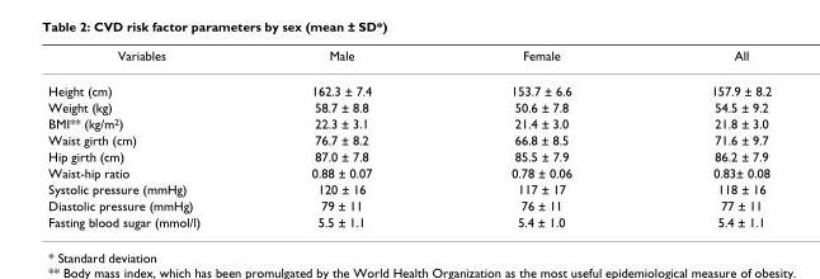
<table><thead><tr><td>Variables</td><td>Male</td><td>Female</td><td>All</td></tr></thead><tbody><tr><td>Height (cm)</td><td>162.3 ± 7.4</td><td>153.7 ± 6.6</td><td>157.9 ± 8.2</td></tr><tr><td>Weight (kg)</td><td>58.7 ± 8.8</td><td>50.6 ± 7.8</td><td>54.5 ± 9.2</td></tr><tr><td>BMI** (kg/m<sup>2</sup>)</td><td>22.3 ± 3.1</td><td>21.4 ± 3.0</td><td>21.8 ± 3.0</td></tr><tr><td>Waist girth (cm)</td><td>76.7 ± 8.2</td><td>66.8 ± 8.5</td><td>71.6 ± 9.7</td></tr><tr><td>Hip girth (cm)</td><td>87.0 ± 7.8</td><td>85.5 ± 7.9</td><td>86.2 ± 7.9</td></tr><tr><td>Waist-hip ratio</td><td>0.88 ± 0.07</td><td>0.78 ± 0.06</td><td>0.83± 0.08</td></tr><tr><td>Systolic pressure (mmHg)</td><td>120 ± 16</td><td>117 ± 17</td><td>118 ± 16</td></tr><tr><td>Diastolic pressure (mmHg)</td><td>79 ± 11</td><td>76 ± 11</td><td>77 ± 11</td></tr><tr><td>Fasting blood sugar (mmol/l)</td><td>5.5 ± 1.1</td><td>5.4 ± 1.0</td><td>5.4 ± 1.1</td></tr></tbody></table>